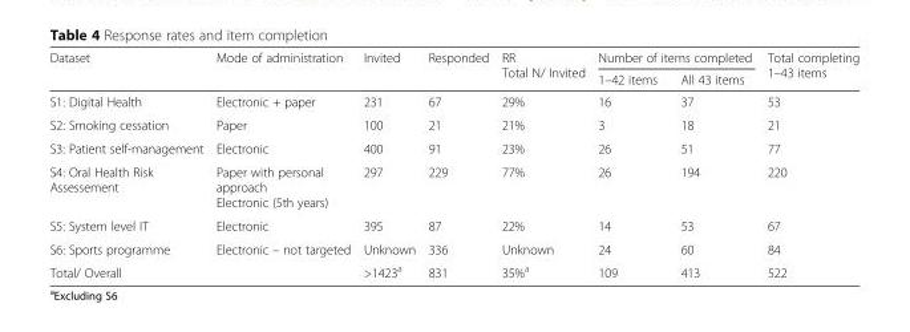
<table><thead><tr><td rowspan="2">Dataset</td><td rowspan="2">Mode of administration</td><td rowspan="2">Invited</td><td rowspan="2">Responded</td><td rowspan="2">RR Total N/ Invited</td><td colspan="2">Number of items completed</td><td rowspan="2">Total completing 1–43 items</td></tr><tr><td>1–42 items</td><td>All 43 items</td></tr></thead><tbody><tr><td>S1: Digital Health</td><td>Electronic + paper</td><td>231</td><td>67</td><td>29%</td><td>16</td><td>37</td><td>53</td></tr><tr><td>S2: Smoking cessation</td><td>Paper</td><td>100</td><td>21</td><td>21%</td><td>3</td><td>18</td><td>21</td></tr><tr><td>S3: Patient self-management</td><td>Electronic</td><td>400</td><td>91</td><td>23%</td><td>26</td><td>51</td><td>77</td></tr><tr><td>S4: Oral Health Risk Assessement</td><td>Paper with personal approach Electronic (5th years)</td><td>297</td><td>229</td><td>77%</td><td>26</td><td>194</td><td>220</td></tr><tr><td>S5: System level IT</td><td>Electronic</td><td>395</td><td>87</td><td>22%</td><td>14</td><td>53</td><td>67</td></tr><tr><td>S6: Sports programme</td><td>Electronic – not targeted</td><td>Unknown</td><td>336</td><td>Unknown</td><td>24</td><td>60</td><td>84</td></tr><tr><td>Total/ Overall</td><td></td><td>&gt;1423<sup>a</sup></td><td>831</td><td>35%<sup>a</sup></td><td>109</td><td>413</td><td>522</td></tr></tbody></table>